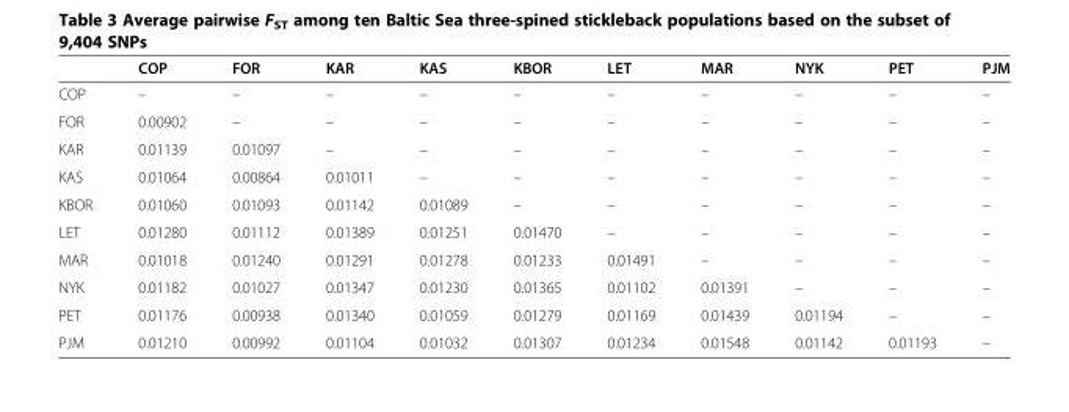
<table><thead><tr><td></td><td>COP</td><td>FOR</td><td>KAR</td><td>KAS</td><td>KBOR</td><td>LET</td><td>MAR</td><td>NYK</td><td>PET</td><td>PJM</td></tr></thead><tbody><tr><td>COP</td><td>–</td><td>–</td><td>–</td><td>–</td><td>–</td><td>–</td><td>–</td><td>–</td><td>–</td><td>–</td></tr><tr><td>FOR</td><td>0.00902</td><td>–</td><td>–</td><td>–</td><td>–</td><td>–</td><td>–</td><td>–</td><td>–</td><td>–</td></tr><tr><td>KAR</td><td>0.01139</td><td>0.01097</td><td>–</td><td>–</td><td>–</td><td>–</td><td>–</td><td>–</td><td>–</td><td>–</td></tr><tr><td>KAS</td><td>0.01064</td><td>0.00864</td><td>0.01011</td><td>–</td><td>–</td><td>–</td><td>–</td><td>–</td><td>–</td><td>–</td></tr><tr><td>KBOR</td><td>0.01060</td><td>0.01093</td><td>0.01142</td><td>0.01089</td><td>–</td><td>–</td><td>–</td><td>–</td><td>–</td><td>–</td></tr><tr><td>LET</td><td>0.01280</td><td>0.01112</td><td>0.01389</td><td>0.01251</td><td>0.01470</td><td>–</td><td>–</td><td>–</td><td>–</td><td>–</td></tr><tr><td>MAR</td><td>0.01018</td><td>0.01240</td><td>0.01291</td><td>0.01278</td><td>0.01233</td><td>0.01491</td><td>–</td><td>–</td><td>–</td><td>–</td></tr><tr><td>NYK</td><td>0.01182</td><td>0.01027</td><td>0.01347</td><td>0.01230</td><td>0.01365</td><td>0.01102</td><td>0.01391</td><td>–</td><td>–</td><td>–</td></tr><tr><td>PET</td><td>0.01176</td><td>0.00938</td><td>0.01340</td><td>0.01059</td><td>0.01279</td><td>0.01169</td><td>0.01439</td><td>0.01194</td><td>–</td><td>–</td></tr><tr><td>PJM</td><td>0.01210</td><td>0.00992</td><td>0.01104</td><td>0.01032</td><td>0.01307</td><td>0.01234</td><td>0.01548</td><td>0.01142</td><td>0.01193</td><td>–</td></tr></tbody></table>